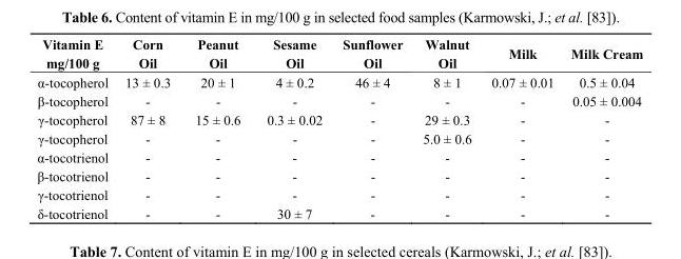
<table><thead><tr><td>Vitamin E mg/100 g</td><td>Corn Oil</td><td>Peanut Oil</td><td>Sesame Oil</td><td>Sunflower Oil</td><td>Walnut Oil</td><td>Milk</td><td>Milk Cream</td></tr></thead><tbody><tr><td>α-tocopherol</td><td>13 ± 0.3</td><td>20 ± 1</td><td>4 ± 0.2</td><td>46 ± 4</td><td>8 ± 1</td><td>0.07 ± 0.01</td><td>0.5 ± 0.04</td></tr><tr><td>β-tocopherol</td><td>-</td><td>-</td><td>-</td><td>-</td><td>-</td><td>-</td><td>0.05 ± 0.004</td></tr><tr><td>γ-tocopherol</td><td>87 ± 8</td><td>15 ± 0.6</td><td>0.3 ± 0.02</td><td>-</td><td>29 ± 0.3</td><td>-</td><td>-</td></tr><tr><td>γ-tocopherol</td><td>-</td><td>-</td><td>-</td><td>-</td><td>5.0 ± 0.6</td><td>-</td><td>-</td></tr><tr><td>α-tocotrienol</td><td>-</td><td>-</td><td>-</td><td>-</td><td>-</td><td>-</td><td>-</td></tr><tr><td>β-tocotrienol</td><td>-</td><td>-</td><td>-</td><td>-</td><td>-</td><td>-</td><td>-</td></tr><tr><td>γ-tocotrienol</td><td>-</td><td>-</td><td>-</td><td>-</td><td>-</td><td>-</td><td>-</td></tr><tr><td>δ-tocotrienol</td><td>-</td><td>-</td><td>30 ± 7</td><td>-</td><td>-</td><td>-</td><td>-</td></tr></tbody></table>